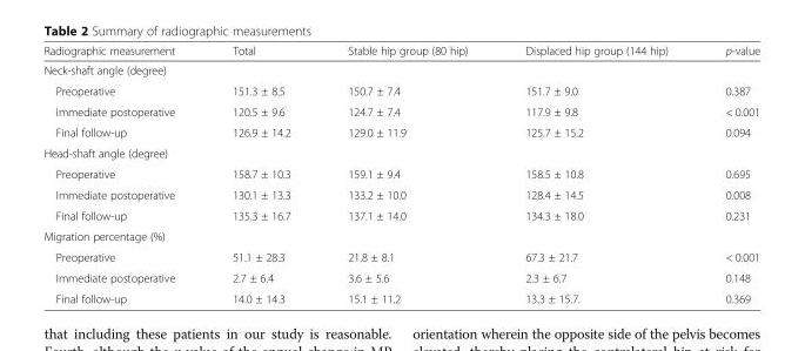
<table><thead><tr><td>Radiographic measurement</td><td>Total</td><td>Stable hip group (80 hip)</td><td>Displaced hip group (144 hip)</td><td>p-value</td></tr></thead><tbody><tr><td colspan="5">Neck-shaft angle (degree)</td></tr><tr><td>Preoperative</td><td>151.3 ± 8.5</td><td>150.7 ± 7.4</td><td>151.7 ± 9.0</td><td>0.387</td></tr><tr><td>Immediate postoperative</td><td>120.5 ± 9.6</td><td>124.7 ± 7.4</td><td>117.9 ± 9.8</td><td>&lt; 0.001</td></tr><tr><td>Final follow-up</td><td>126.9 ± 14.2</td><td>129.0 ± 11.9</td><td>125.7 ± 15.2</td><td>0.094</td></tr><tr><td colspan="5">Head-shaft angle (degree)</td></tr><tr><td>Preoperative</td><td>158.7 ± 10.3</td><td>159.1 ± 9.4</td><td>158.5 ± 10.8</td><td>0.695</td></tr><tr><td>Immediate postoperative</td><td>130.1 ± 13.3</td><td>133.2 ± 10.0</td><td>128.4 ± 14.5</td><td>0.008</td></tr><tr><td>Final follow-up</td><td>135.3 ± 16.7</td><td>137.1 ± 14.0</td><td>134.3 ± 18.0</td><td>0.231</td></tr><tr><td colspan="5">Migration percentage (%)</td></tr><tr><td>Preoperative</td><td>51.1 ± 28.3</td><td>21.8 ± 8.1</td><td>67.3 ± 21.7</td><td>&lt; 0.001</td></tr><tr><td>Immediate postoperative</td><td>2.7 ± 6.4</td><td>3.6 ± 5.6</td><td>2.3 ± 6.7</td><td>0.148</td></tr><tr><td>Final follow-up</td><td>14.0 ± 14.3</td><td>15.1 ± 11.2</td><td>13.3 ± 15.7.</td><td>0.369</td></tr></tbody></table>